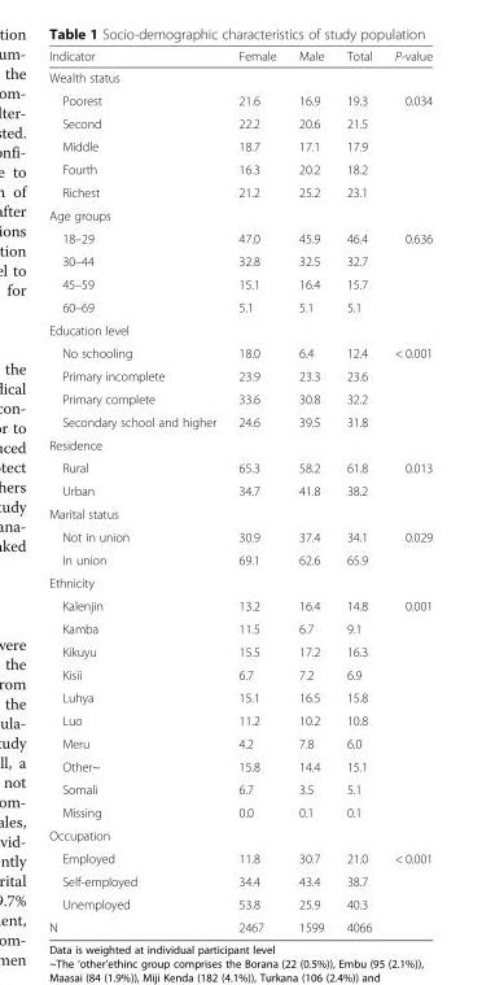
<table><thead><tr><td>Indicator</td><td>Female</td><td>Male</td><td>Total</td><td>P-value</td></tr></thead><tbody><tr><td colspan="5">Wealth status</td></tr><tr><td>Poorest</td><td>21.6</td><td>16.9</td><td>19.3</td><td>0.034</td></tr><tr><td>Second</td><td>22.2</td><td>20.6</td><td>21.5</td><td></td></tr><tr><td>Middle</td><td>18.7</td><td>17.1</td><td>17.9</td><td></td></tr><tr><td>Fourth</td><td>16.3</td><td>20.2</td><td>18.2</td><td></td></tr><tr><td>Richest</td><td>21.2</td><td>25.2</td><td>23.1</td><td></td></tr><tr><td colspan="5">Age groups</td></tr><tr><td>18–29</td><td>47.0</td><td>45.9</td><td>46.4</td><td>0.636</td></tr><tr><td>30–44</td><td>32.8</td><td>32.5</td><td>32.7</td><td></td></tr><tr><td>45–59</td><td>15.1</td><td>16.4</td><td>15.7</td><td></td></tr><tr><td>60–69</td><td>5.1</td><td>5.1</td><td>5.1</td><td></td></tr><tr><td colspan="5">Education level</td></tr><tr><td>No schooling</td><td>18.0</td><td>6.4</td><td>12.4</td><td>&lt; 0.001</td></tr><tr><td>Primary incomplete</td><td>23.9</td><td>23.3</td><td>23.6</td><td></td></tr><tr><td>Primary complete</td><td>33.6</td><td>30.8</td><td>32.2</td><td></td></tr><tr><td>Secondary school and higher</td><td>24.6</td><td>39.5</td><td>31.8</td><td></td></tr><tr><td colspan="5">Residence</td></tr><tr><td>Rural</td><td>65.3</td><td>58.2</td><td>61.8</td><td>0.013</td></tr><tr><td>Urban</td><td>34.7</td><td>41.8</td><td>38.2</td><td></td></tr><tr><td colspan="5">Marital status</td></tr><tr><td>Not in union</td><td>30.9</td><td>37.4</td><td>34.1</td><td>0.029</td></tr><tr><td>In union</td><td>69.1</td><td>62.6</td><td>65.9</td><td></td></tr><tr><td colspan="5">Ethnicity</td></tr><tr><td>Kalenjin</td><td>13.2</td><td>16.4</td><td>14.8</td><td>0.001</td></tr><tr><td>Kamba</td><td>11.5</td><td>6.7</td><td>9.1</td><td></td></tr><tr><td>Kikuyu</td><td>15.5</td><td>17.2</td><td>16.3</td><td></td></tr><tr><td>Kisii</td><td>6.7</td><td>7.2</td><td>6.9</td><td></td></tr><tr><td>Luhya</td><td>15.1</td><td>16.5</td><td>15.8</td><td></td></tr><tr><td>Luo</td><td>11.2</td><td>10.2</td><td>10.8</td><td></td></tr><tr><td>Meru</td><td>4.2</td><td>7.8</td><td>6.0</td><td></td></tr><tr><td>Other~</td><td>15.8</td><td>14.4</td><td>15.1</td><td></td></tr><tr><td>Somali</td><td>6.7</td><td>3.5</td><td>5.1</td><td></td></tr><tr><td>Missing</td><td>0.0</td><td>0.1</td><td>0.1</td><td></td></tr><tr><td colspan="5">Occupation</td></tr><tr><td>Employed</td><td>11.8</td><td>30.7</td><td>21.0</td><td>&lt; 0.001</td></tr><tr><td>Self-employed</td><td>34.4</td><td>43.4</td><td>38.7</td><td></td></tr><tr><td>Unemployed</td><td>53.8</td><td>25.9</td><td>40.3</td><td></td></tr><tr><td>N</td><td>2467</td><td>1599</td><td>4066</td><td></td></tr></tbody></table>